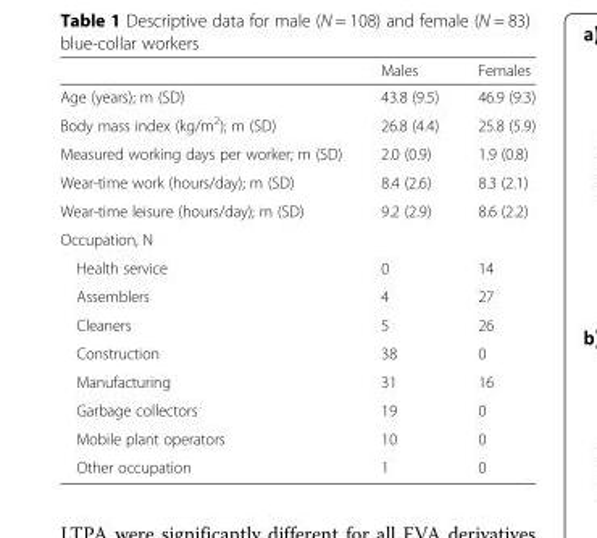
<table><thead><tr><td></td><td>Males</td><td>Females</td></tr></thead><tbody><tr><td>Age (years); m (SD)</td><td>43.8 (9.5)</td><td>46.9 (9.3)</td></tr><tr><td>Body mass index (kg/m<sup>2</sup>); m (SD)</td><td>26.8 (4.4)</td><td>25.8 (5.9)</td></tr><tr><td>Measured working days per worker; m (SD)</td><td>2.0 (0.9)</td><td>1.9 (0.8)</td></tr><tr><td>Wear-time work (hours/day); m (SD)</td><td>8.4 (2.6)</td><td>8.3 (2.1)</td></tr><tr><td>Wear-time leisure (hours/day); m (SD)</td><td>9.2 (2.9)</td><td>8.6 (2.2)</td></tr><tr><td colspan="3">Occupation, N</td></tr><tr><td>Health service</td><td>0</td><td>14</td></tr><tr><td>Assemblers</td><td>4</td><td>27</td></tr><tr><td>Cleaners</td><td>5</td><td>26</td></tr><tr><td>Construction</td><td>38</td><td>0</td></tr><tr><td>Manufacturing</td><td>31</td><td>16</td></tr><tr><td>Garbage collectors</td><td>19</td><td>0</td></tr><tr><td>Mobile plant operators</td><td>10</td><td>0</td></tr><tr><td>Other occupation</td><td>1</td><td>0</td></tr></tbody></table>